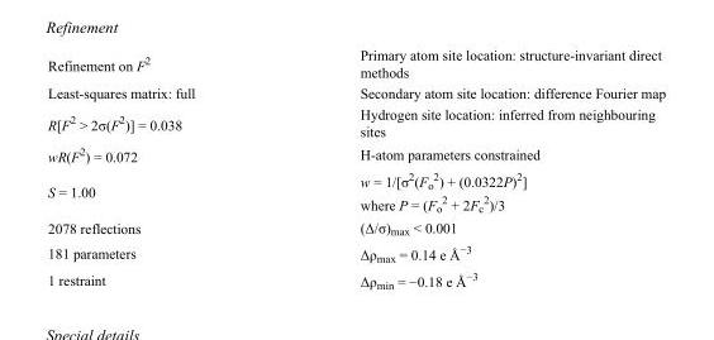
<table><tbody><tr><td>Refinement on F<sup>2</sup></td><td>Primary atom site location: structure-invariant direct methods</td></tr><tr><td>Least-squares matrix: full</td><td>Secondary atom site location: difference Fourier map</td></tr><tr><td>R[F<sup>2</sup> &gt; 2σ(F<sup>2</sup>)] = 0.038</td><td>Hydrogen site location: inferred from neighbouring sites</td></tr><tr><td>wR(F<sup>2</sup>) = 0.072</td><td>H-atom parameters constrained</td></tr><tr><td>S = 1.00</td><td>w = 1/[σ<sup>2</sup>(F<sub>o</sub> <sup>2</sup>) + (0.0322P)<sup>2</sup>] where P = (F<sub>o</sub> <sup>2</sup> + 2F<sub>c</sub> <sup>2</sup>)/3</td></tr><tr><td>2078 reflections</td><td>(Δ/σ)<sub>max</sub> &lt; 0.001</td></tr><tr><td>181 parameters</td><td>Δρ<sub>max</sub> = 0.14 e Å<sup>−3</sup></td></tr><tr><td>1 restraint</td><td>Δρ<sub>min</sub> = −0.18 e Å<sup>−3</sup></td></tr></tbody></table>